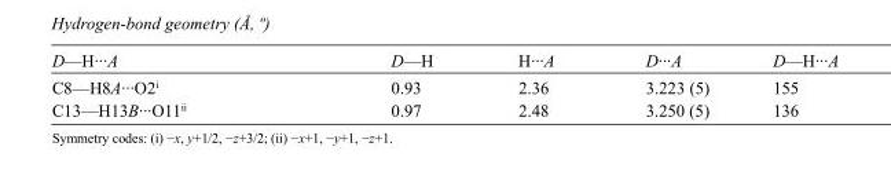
<table><tbody><tr><td>D—H···A</td><td>D—H</td><td>H···A</td><td>D···A</td><td>D—H···A</td></tr><tr><td>C8—H8A···O2<sup>i</sup></td><td>0.93</td><td>2.36</td><td>3.223 (5)</td><td>155</td></tr><tr><td>C13—H13B···O11<sup>ii</sup></td><td>0.97</td><td>2.48</td><td>3.250 (5)</td><td>136</td></tr></tbody></table>